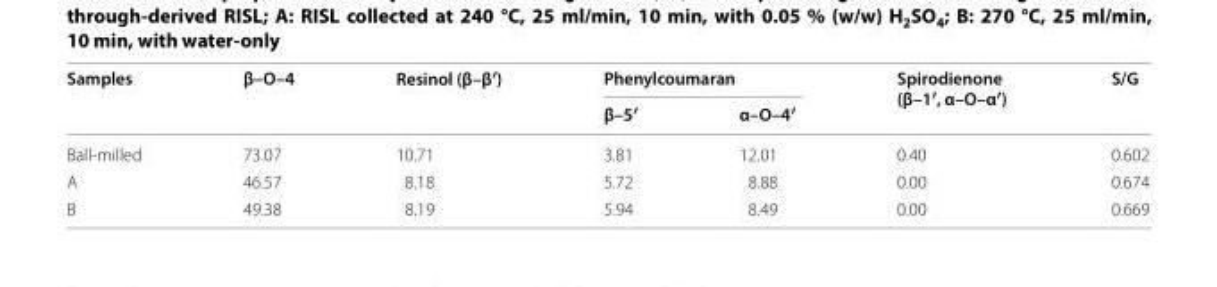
<table><thead><tr><td rowspan="2">Samples</td><td rowspan="2">β–O–4</td><td rowspan="2">Resinol (β–β′)</td><td colspan="2">Phenylcoumaran</td><td rowspan="2">Spirodienone (β–1′, α–O–α′)</td><td rowspan="2">S/G</td></tr><tr><td>β–5′</td><td>α–O–4′</td></tr></thead><tbody><tr><td>Ball-milled</td><td>73.07</td><td>10.71</td><td>3.81</td><td>12.01</td><td>0.40</td><td>0.602</td></tr><tr><td>A</td><td>46.57</td><td>8.18</td><td>5.72</td><td>8.88</td><td>0.00</td><td>0.674</td></tr><tr><td>B</td><td>49.38</td><td>8.19</td><td>5.94</td><td>8.49</td><td>0.00</td><td>0.669</td></tr></tbody></table>